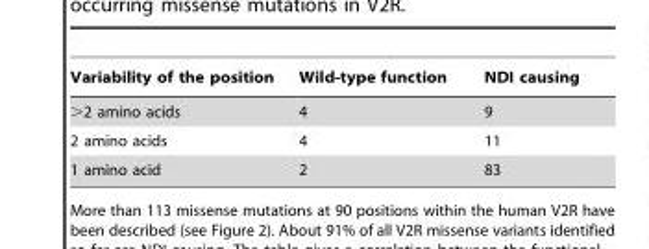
<table><thead><tr><td>Variability of the position</td><td>Wild-type function</td><td>NDI causing</td></tr></thead><tbody><tr><td>&gt;2 amino acids</td><td>4</td><td>9</td></tr><tr><td>2 amino acids</td><td>4</td><td>11</td></tr><tr><td>1 amino acid</td><td>2</td><td>83</td></tr></tbody></table>